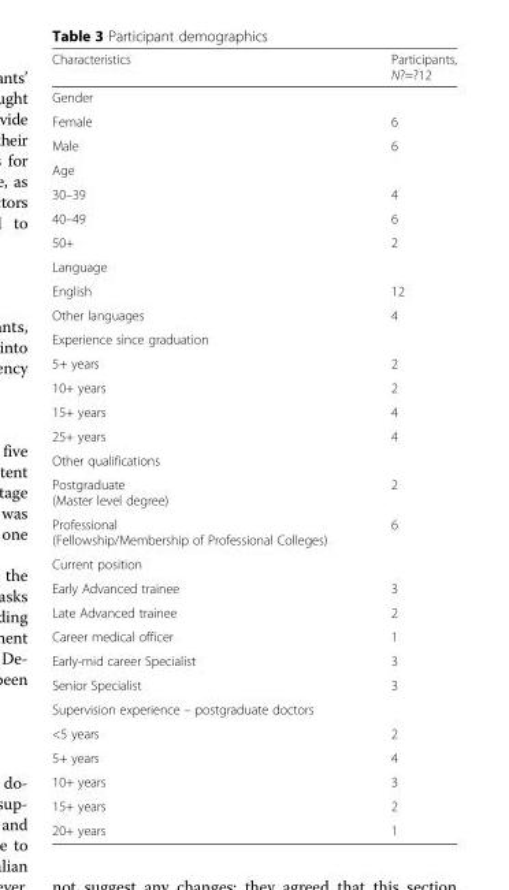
<table><thead><tr><td>Characteristics</td><td>Participants, N?=?12</td></tr></thead><tbody><tr><td colspan="2">Gender</td></tr><tr><td>Female</td><td>6</td></tr><tr><td>Male</td><td>6</td></tr><tr><td colspan="2">Age</td></tr><tr><td>30–39</td><td>4</td></tr><tr><td>40–49</td><td>6</td></tr><tr><td>50+</td><td>2</td></tr><tr><td colspan="2">Language</td></tr><tr><td>English</td><td>12</td></tr><tr><td>Other languages</td><td>4</td></tr><tr><td colspan="2">Experience since graduation</td></tr><tr><td>5+ years</td><td>2</td></tr><tr><td>10+ years</td><td>2</td></tr><tr><td>15+ years</td><td>4</td></tr><tr><td>25+ years</td><td>4</td></tr><tr><td colspan="2">Other qualifications</td></tr><tr><td>Postgraduate (Master level degree)</td><td>2</td></tr><tr><td>Professional (Fellowship/Membership of Professional Colleges)</td><td>6</td></tr><tr><td colspan="2">Current position</td></tr><tr><td>Early Advanced trainee</td><td>3</td></tr><tr><td>Late Advanced trainee</td><td>2</td></tr><tr><td>Career medical officer</td><td>1</td></tr><tr><td>Early-mid career Specialist</td><td>3</td></tr><tr><td>Senior Specialist</td><td>3</td></tr><tr><td colspan="2">Supervision experience – postgraduate doctors</td></tr><tr><td>&lt;5 years</td><td>2</td></tr><tr><td>5+ years</td><td>4</td></tr><tr><td>10+ years</td><td>3</td></tr><tr><td>15+ years</td><td>2</td></tr><tr><td>20+ years</td><td>1</td></tr></tbody></table>